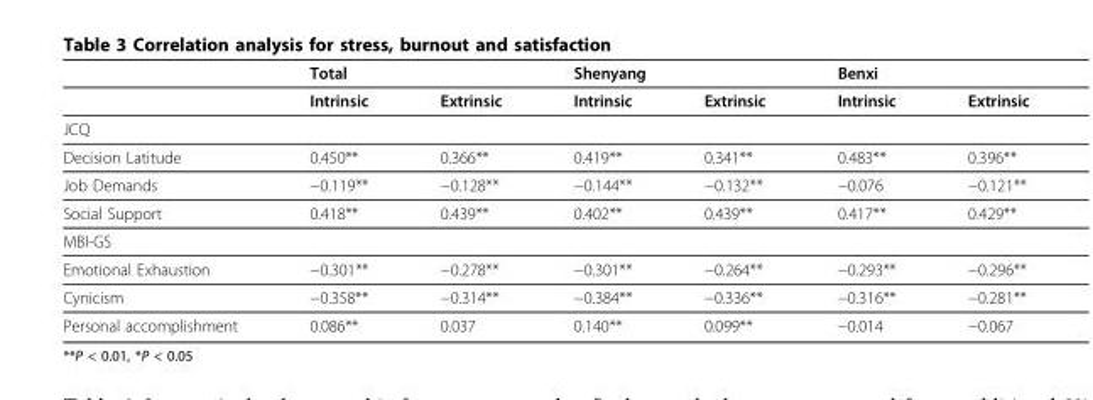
<table><thead><tr><td rowspan="2"></td><td colspan="2">Total</td><td colspan="2">Shenyang</td><td colspan="2">Benxi</td></tr><tr><td>Intrinsic</td><td>Extrinsic</td><td>Intrinsic</td><td>Extrinsic</td><td>Intrinsic</td><td>Extrinsic</td></tr></thead><tbody><tr><td colspan="7">JCQ</td></tr><tr><td>Decision Latitude</td><td>0.450**</td><td>0.366**</td><td>0.419**</td><td>0.341**</td><td>0.483**</td><td>0.396**</td></tr><tr><td>Job Demands</td><td>−0.119**</td><td>−0.128**</td><td>−0.144**</td><td>−0.132**</td><td>−0.076</td><td>−0.121**</td></tr><tr><td>Social Support</td><td>0.418**</td><td>0.439**</td><td>0.402**</td><td>0.439**</td><td>0.417**</td><td>0.429**</td></tr><tr><td colspan="7">MBI-GS</td></tr><tr><td>Emotional Exhaustion</td><td>−0.301**</td><td>−0.278**</td><td>−0.301**</td><td>−0.264**</td><td>−0.293**</td><td>−0.296**</td></tr><tr><td>Cynicism</td><td>−0.358**</td><td>−0.314**</td><td>−0.384**</td><td>−0.336**</td><td>−0.316**</td><td>−0.281**</td></tr><tr><td>Personal accomplishment</td><td>0.086**</td><td>0.037</td><td>0.140**</td><td>0.099**</td><td>−0.014</td><td>−0.067</td></tr></tbody></table>